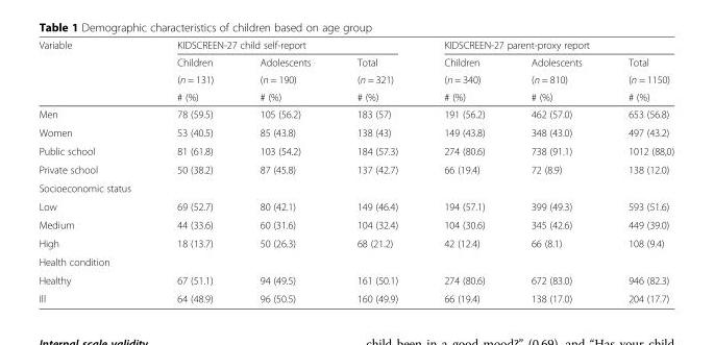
<table><thead><tr><td rowspan="4">Variable</td><td colspan="3">KIDSCREEN-27 child self-report</td><td colspan="3">KIDSCREEN-27 parent-proxy report</td></tr><tr><td rowspan="3">Children (n = 131) # (%)</td><td rowspan="3">Adolescents (n = 190) # (%)</td><td rowspan="3">Total (n = 321) # (%)</td><td rowspan="3">Children (n = 340) # (%)</td><td rowspan="3">Adolescents (n = 810) # (%)</td><td rowspan="3">Total (n = 1150) # (%)</td></tr><tr></tr><tr></tr></thead><tbody><tr><td>Men</td><td>78 (59.5)</td><td>105 (56.2)</td><td>183 (57)</td><td>191 (56.2)</td><td>462 (57.0)</td><td>653 (56.8)</td></tr><tr><td>Women</td><td>53 (40.5)</td><td>85 (43.8)</td><td>138 (43)</td><td>149 (43.8)</td><td>348 (43.0)</td><td>497 (43.2)</td></tr><tr><td>Public school</td><td>81 (61.8)</td><td>103 (54.2)</td><td>184 (57.3)</td><td>274 (80.6)</td><td>738 (91.1)</td><td>1012 (88,0)</td></tr><tr><td>Private school</td><td>50 (38.2)</td><td>87 (45.8)</td><td>137 (42.7)</td><td>66 (19.4)</td><td>72 (8.9)</td><td>138 (12.0)</td></tr><tr><td colspan="7">Socioeconomic status</td></tr><tr><td>Low</td><td>69 (52.7)</td><td>80 (42.1)</td><td>149 (46.4)</td><td>194 (57.1)</td><td>399 (49.3)</td><td>593 (51.6)</td></tr><tr><td>Medium</td><td>44 (33.6)</td><td>60 (31.6)</td><td>104 (32.4)</td><td>104 (30.6)</td><td>345 (42.6)</td><td>449 (39.0)</td></tr><tr><td>High</td><td>18 (13.7)</td><td>50 (26.3)</td><td>68 (21.2)</td><td>42 (12.4)</td><td>66 (8.1)</td><td>108 (9.4)</td></tr><tr><td colspan="7">Health condition</td></tr><tr><td>Healthy</td><td>67 (51.1)</td><td>94 (49.5)</td><td>161 (50.1)</td><td>274 (80.6)</td><td>672 (83.0)</td><td>946 (82.3)</td></tr><tr><td>Ill</td><td>64 (48.9)</td><td>96 (50.5)</td><td>160 (49.9)</td><td>66 (19.4)</td><td>138 (17.0)</td><td>204 (17.7)</td></tr></tbody></table>